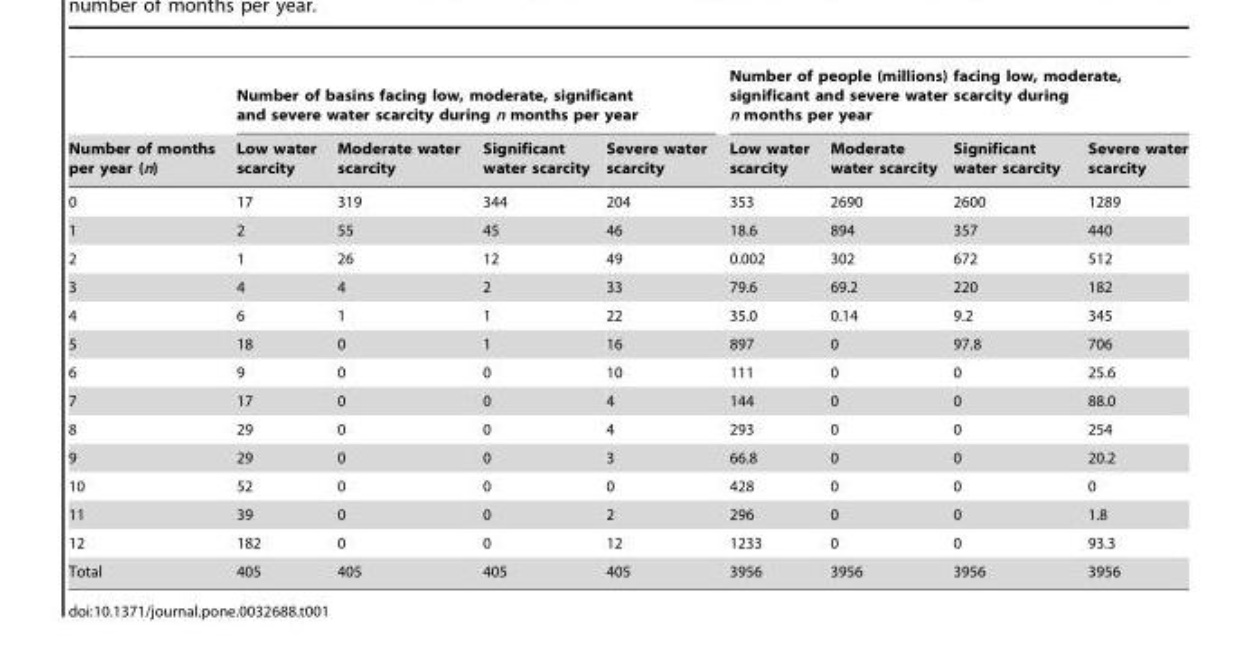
<table><thead><tr><td rowspan="2">Number of months per year (n)</td><td colspan="4">Number of basins facing low, moderate, significant and severe water scarcity during n months per year</td><td colspan="4">Number of people (millions) facing low, moderate, significant and severe water scarcity during n months per year</td></tr><tr><td>Low water scarcity</td><td>Moderate water scarcity</td><td>Significant water scarcity</td><td>Severe water scarcity</td><td>Low water scarcity</td><td>Moderate water scarcity</td><td>Significant water scarcity</td><td>Severe water scarcity</td></tr></thead><tbody><tr><td>0</td><td>17</td><td>319</td><td>344</td><td>204</td><td>353</td><td>2690</td><td>2600</td><td>1289</td></tr><tr><td>1</td><td>2</td><td>55</td><td>45</td><td>46</td><td>18.6</td><td>894</td><td>357</td><td>440</td></tr><tr><td>2</td><td>1</td><td>26</td><td>12</td><td>49</td><td>0.002</td><td>302</td><td>672</td><td>512</td></tr><tr><td>3</td><td>4</td><td>4</td><td>2</td><td>33</td><td>79.6</td><td>69.2</td><td>220</td><td>182</td></tr><tr><td>4</td><td>6</td><td>1</td><td>1</td><td>22</td><td>35.0</td><td>0.14</td><td>9.2</td><td>345</td></tr><tr><td>5</td><td>18</td><td>0</td><td>1</td><td>16</td><td>897</td><td>0</td><td>97.8</td><td>706</td></tr><tr><td>6</td><td>9</td><td>0</td><td>0</td><td>10</td><td>111</td><td>0</td><td>0</td><td>25.6</td></tr><tr><td>7</td><td>17</td><td>0</td><td>0</td><td>4</td><td>144</td><td>0</td><td>0</td><td>88.0</td></tr><tr><td>8</td><td>29</td><td>0</td><td>0</td><td>4</td><td>293</td><td>0</td><td>0</td><td>254</td></tr><tr><td>9</td><td>29</td><td>0</td><td>0</td><td>3</td><td>66.8</td><td>0</td><td>0</td><td>20.2</td></tr><tr><td>10</td><td>52</td><td>0</td><td>0</td><td>0</td><td>428</td><td>0</td><td>0</td><td>0</td></tr><tr><td>11</td><td>39</td><td>0</td><td>0</td><td>2</td><td>296</td><td>0</td><td>0</td><td>1.8</td></tr><tr><td>12</td><td>182</td><td>0</td><td>0</td><td>12</td><td>1233</td><td>0</td><td>0</td><td>93.3</td></tr><tr><td>Total</td><td>405</td><td>405</td><td>405</td><td>405</td><td>3956</td><td>3956</td><td>3956</td><td>3956</td></tr></tbody></table>